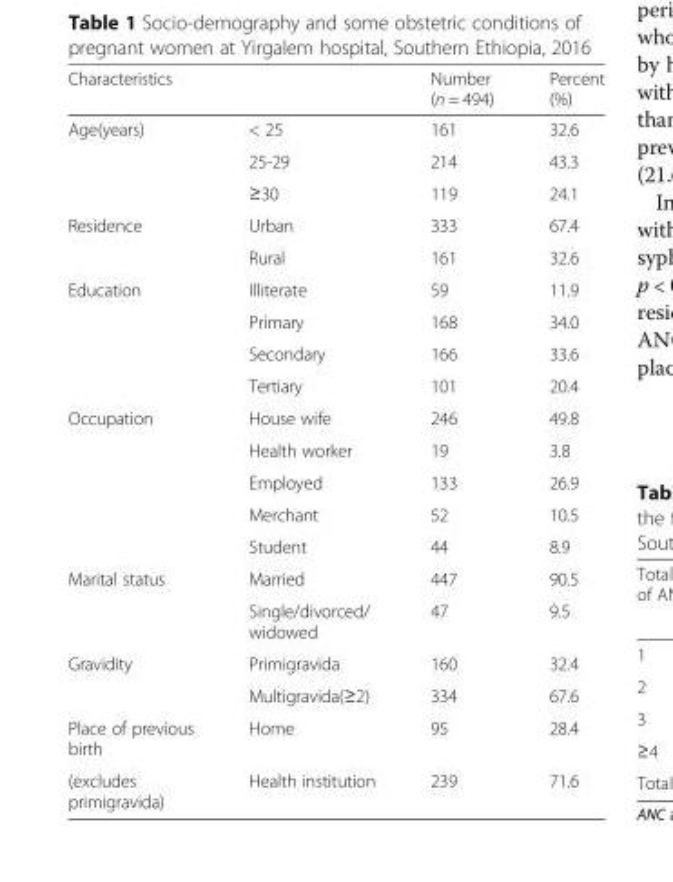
<table><thead><tr><td>Characteristics</td><td></td><td>Number (n = 494)</td><td>Percent (%)</td></tr></thead><tbody><tr><td rowspan="3">Age(years)</td><td>&lt; 25</td><td>161</td><td>32.6</td></tr><tr><td>25-29</td><td>214</td><td>43.3</td></tr><tr><td>≥30</td><td>119</td><td>24.1</td></tr><tr><td rowspan="2">Residence</td><td>Urban</td><td>333</td><td>67.4</td></tr><tr><td>Rural</td><td>161</td><td>32.6</td></tr><tr><td rowspan="4">Education</td><td>Illiterate</td><td>59</td><td>11.9</td></tr><tr><td>Primary</td><td>168</td><td>34.0</td></tr><tr><td>Secondary</td><td>166</td><td>33.6</td></tr><tr><td>Tertiary</td><td>101</td><td>20.4</td></tr><tr><td rowspan="5">Occupation</td><td>House wife</td><td>246</td><td>49.8</td></tr><tr><td>Health worker</td><td>19</td><td>3.8</td></tr><tr><td>Employed</td><td>133</td><td>26.9</td></tr><tr><td>Merchant</td><td>52</td><td>10.5</td></tr><tr><td>Student</td><td>44</td><td>8.9</td></tr><tr><td rowspan="2">Marital status</td><td>Married</td><td>447</td><td>90.5</td></tr><tr><td>Single/divorced/ widowed</td><td>47</td><td>9.5</td></tr><tr><td rowspan="2">Gravidity</td><td>Primigravida</td><td>160</td><td>32.4</td></tr><tr><td>Multigravida(≥2)</td><td>334</td><td>67.6</td></tr><tr><td>Place of previous birth</td><td>Home</td><td>95</td><td>28.4</td></tr><tr><td>(excludes primigravida)</td><td>Health institution</td><td>239</td><td>71.6</td></tr></tbody></table>